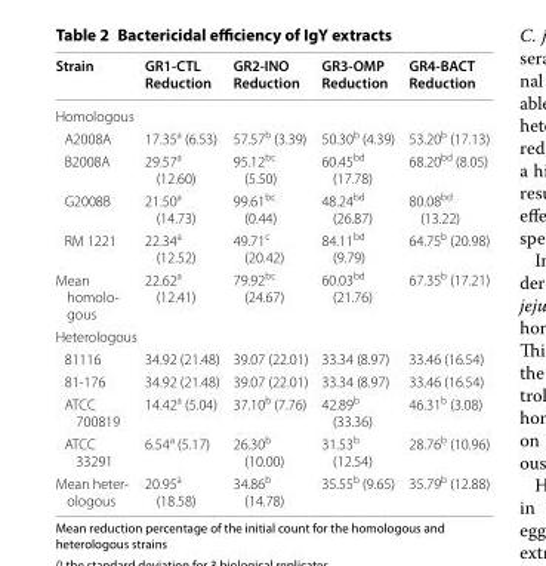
<table><thead><tr><td>Strain</td><td>GR1‑CTL Reduction</td><td>GR2‑INO Reduction</td><td>GR3‑OMP Reduction</td><td>GR4‑BACT Reduction</td></tr></thead><tbody><tr><td colspan="5">Homologous</td></tr><tr><td>A2008A</td><td>17.35<sup>a</sup> (6.53)</td><td>57.57<sup>b</sup> (3.39)</td><td>50.30<sup>b</sup> (4.39)</td><td>53.20<sup>b</sup> (17.13)</td></tr><tr><td>B2008A</td><td>29.57<sup>a</sup> (12.60)</td><td>95.12<sup>bc</sup> (5.50)</td><td>60.45<sup>bd</sup> (17.78)</td><td>68.20<sup>bd</sup> (8.05)</td></tr><tr><td>G2008B</td><td>21.50<sup>a</sup> (14.73)</td><td>99.61<sup>bc</sup> (0.44)</td><td>48.24<sup>bd</sup> (26.87)</td><td>80.08<sup>bd</sup> (13.22)</td></tr><tr><td>RM 1221</td><td>22.34<sup>a</sup> (12.52)</td><td>49.71<sup>c</sup> (20.42)</td><td>84.11<sup>bd</sup> (9.79)</td><td>64.75<sup>b</sup> (20.98)</td></tr><tr><td>Mean homolo‑ gous</td><td>22.62<sup>a</sup> (12.41)</td><td>79.92<sup>bc</sup> (24.67)</td><td>60.03<sup>bd</sup> (21.76)</td><td>67.35<sup>b</sup> (17.21)</td></tr><tr><td colspan="5">Heterologous</td></tr><tr><td>81116</td><td>34.92 (21.48)</td><td>39.07 (22.01)</td><td>33.34 (8.97)</td><td>33.46 (16.54)</td></tr><tr><td>81‑176</td><td>34.92 (21.48)</td><td>39.07 (22.01)</td><td>33.34 (8.97)</td><td>33.46 (16.54)</td></tr><tr><td>ATCC 700819</td><td>14.42<sup>a</sup> (5.04)</td><td>37.10<sup>b</sup> (7.76)</td><td>42.89<sup>b</sup> (33.36)</td><td>46.31<sup>b</sup> (3.08)</td></tr><tr><td>ATCC 33291</td><td>6.54<sup>a</sup> (5.17)</td><td>26.30<sup>b</sup> (10.00)</td><td>31.53<sup>b</sup> (12.54)</td><td>28.76<sup>b</sup> (10.96)</td></tr><tr><td>Mean heter‑ ologous</td><td>20.95<sup>a</sup> (18.58)</td><td>34.86<sup>b</sup> (14.78)</td><td>35.55<sup>b</sup> (9.65)</td><td>35.79<sup>b</sup> (12.88)</td></tr></tbody></table>